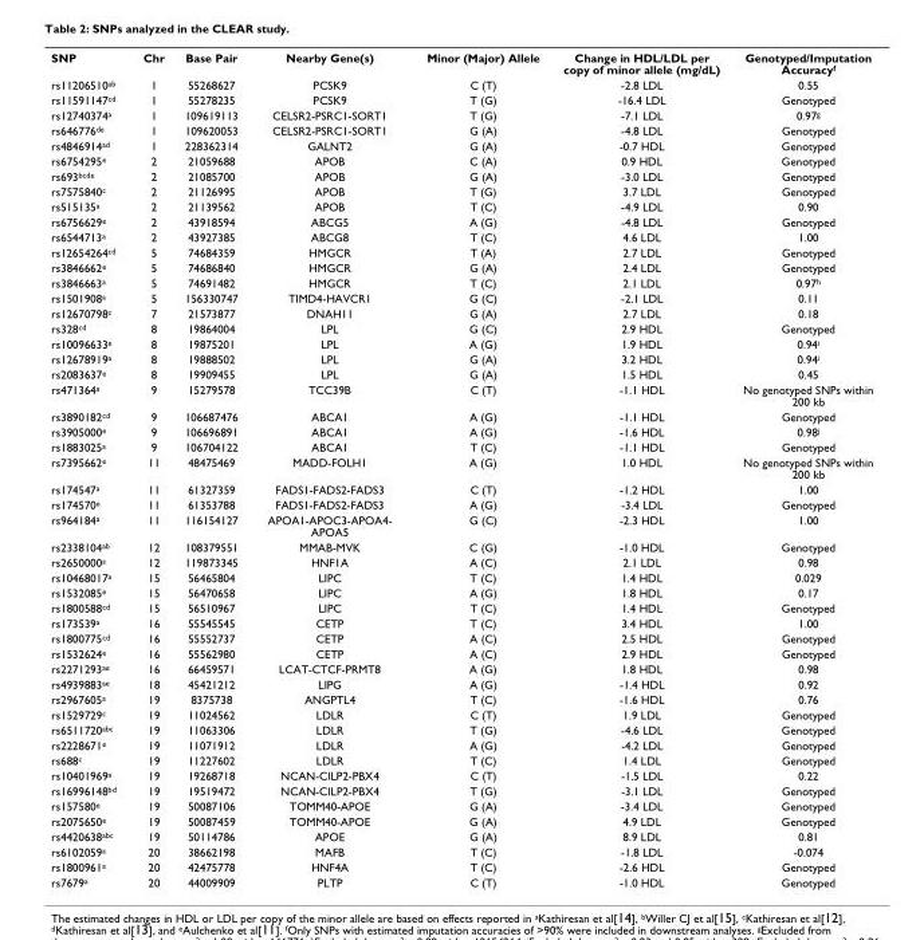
<table><tbody><tr><td>SNP</td><td>Chr</td><td>Base Pair</td><td>Nearby Gene(s)</td><td>Minor (Major) Allele</td><td>Change in HDL/LDL per copy of minor allele (mg/dL)</td><td>Genotyped/Imputation Accuracy<sup>f</sup></td></tr><tr><td>rs11206510<sup>ab</sup></td><td>1</td><td>55268627</td><td>PCSK9</td><td>C (T)</td><td>-2.8 LDL</td><td>0.55</td></tr><tr><td>rs11591147<sup>cd</sup></td><td>1</td><td>55278235</td><td>PCSK9</td><td>T (G)</td><td>-16.4 LDL</td><td>Genotyped</td></tr><tr><td>rs12740374<sup>a</sup></td><td>1</td><td>109619113</td><td>CELSR2-PSRC1-SORT1</td><td>T (G)</td><td>-7.1 LDL</td><td>0.97<sup>g</sup></td></tr><tr><td>rs646776<sup>de</sup></td><td>1</td><td>109620053</td><td>CELSR2-PSRC1-SORT1</td><td>G (A)</td><td>-4.8 LDL</td><td>Genotyped</td></tr><tr><td>rs4846914<sup>ad</sup></td><td>1</td><td>228362314</td><td>GALNT2</td><td>G (A)</td><td>-0.7 HDL</td><td>Genotyped</td></tr><tr><td>rs6754295<sup>e</sup></td><td>2</td><td>21059688</td><td>APOB</td><td>C (A)</td><td>0.9 HDL</td><td>Genotyped</td></tr><tr><td>rs693<sup>bcde</sup></td><td>2</td><td>21085700</td><td>APOB</td><td>G (A)</td><td>-3.0 LDL</td><td>Genotyped</td></tr><tr><td>rs7575840<sup>c</sup></td><td>2</td><td>21126995</td><td>APOB</td><td>T (G)</td><td>3.7 LDL</td><td>Genotyped</td></tr><tr><td>rs515135<sup>a</sup></td><td>2</td><td>21139562</td><td>APOB</td><td>T (C)</td><td>-4.9 LDL</td><td>0.90</td></tr><tr><td>rs6756629<sup>e</sup></td><td>2</td><td>43918594</td><td>ABCG5</td><td>A (G)</td><td>-4.8 LDL</td><td>Genotyped</td></tr><tr><td>rs6544713<sup>a</sup></td><td>2</td><td>43927385</td><td>ABCG8</td><td>T (C)</td><td>4.6 LDL</td><td>1.00</td></tr><tr><td>rs12654264<sup>cd</sup></td><td>5</td><td>74684359</td><td>HMGCR</td><td>T (A)</td><td>2.7 LDL</td><td>Genotyped</td></tr><tr><td>rs3846662<sup>e</sup></td><td>5</td><td>74686840</td><td>HMGCR</td><td>G (A)</td><td>2.4 LDL</td><td>Genotyped</td></tr><tr><td>rs3846663<sup>a</sup></td><td>5</td><td>74691482</td><td>HMGCR</td><td>T (C)</td><td>2.1 LDL</td><td>0.97<sup>h</sup></td></tr><tr><td>rs1501908<sup>a</sup></td><td>5</td><td>156330747</td><td>TIMD4-HAVCR1</td><td>G (C)</td><td>-2.1 LDL</td><td>0.11</td></tr><tr><td>rs12670798<sup>c</sup></td><td>7</td><td>21573877</td><td>DNAH11</td><td>G (A)</td><td>2.7 LDL</td><td>0.18</td></tr><tr><td>rs328<sup>cd</sup></td><td>8</td><td>19864004</td><td>LPL</td><td>G (C)</td><td>2.9 HDL</td><td>Genotyped</td></tr><tr><td>rs10096633<sup>e</sup></td><td>8</td><td>19875201</td><td>LPL</td><td>A (G)</td><td>1.9 HDL</td><td>0.94<sup>i</sup></td></tr><tr><td>rs12678919<sup>a</sup></td><td>8</td><td>19888502</td><td>LPL</td><td>G (A)</td><td>3.2 HDL</td><td>0.94<sup>i</sup></td></tr><tr><td>rs2083637<sup>e</sup></td><td>8</td><td>19909455</td><td>LPL</td><td>G (A)</td><td>1.5 HDL</td><td>0.45</td></tr><tr><td>rs471364<sup>a</sup></td><td>9</td><td>15279578</td><td>TCC39B</td><td>C (T)</td><td>-1.1 HDL</td><td>No genotyped SNPs within 200 kb</td></tr><tr><td>rs3890182<sup>cd</sup></td><td>9</td><td>106687476</td><td>ABCA1</td><td>A (G)</td><td>-1.1 HDL</td><td>Genotyped</td></tr><tr><td>rs3905000<sup>e</sup></td><td>9</td><td>106696891</td><td>ABCA1</td><td>A (G)</td><td>-1.6 HDL</td><td>0.98<sup>j</sup></td></tr><tr><td>rs1883025<sup>a</sup></td><td>9</td><td>106704122</td><td>ABCA1</td><td>T (C)</td><td>-1.1 HDL</td><td>Genotyped</td></tr><tr><td>rs7395662<sup>e</sup></td><td>11</td><td>48475469</td><td>MADD-FOLH1</td><td>A (G)</td><td>1.0 HDL</td><td>No genotyped SNPs within 200 kb</td></tr><tr><td>rs174547<sup>a</sup></td><td>11</td><td>61327359</td><td>FADS1-FADS2-FADS3</td><td>C (T)</td><td>-1.2 HDL</td><td>1.00</td></tr><tr><td>rs174570<sup>e</sup></td><td>11</td><td>61353788</td><td>FADS1-FADS2-FADS3</td><td>A (G)</td><td>-3.4 LDL</td><td>Genotyped</td></tr><tr><td>rs964184<sup>a</sup></td><td>11</td><td>116154127</td><td>APOA1-APOC3-APOA4- APOA5</td><td>G (C)</td><td>-2.3 HDL</td><td>1.00</td></tr><tr><td>rs2338104<sup>ab</sup></td><td>12</td><td>108379551</td><td>MMAB-MVK</td><td>C (G)</td><td>-1.0 HDL</td><td>Genotyped</td></tr><tr><td>rs2650000<sup>a</sup></td><td>12</td><td>119873345</td><td>HNF1A</td><td>A (C)</td><td>2.1 LDL</td><td>0.98</td></tr><tr><td>rs10468017<sup>a</sup></td><td>15</td><td>56465804</td><td>LIPC</td><td>T (C)</td><td>1.4 HDL</td><td>0.029</td></tr><tr><td>rs1532085<sup>e</sup></td><td>15</td><td>56470658</td><td>LIPC</td><td>A (G)</td><td>1.8 HDL</td><td>0.17</td></tr><tr><td>rs1800588<sup>cd</sup></td><td>15</td><td>56510967</td><td>LIPC</td><td>T (C)</td><td>1.4 HDL</td><td>Genotyped</td></tr><tr><td>rs173539<sup>a</sup></td><td>16</td><td>55545545</td><td>CETP</td><td>T (C)</td><td>3.4 HDL</td><td>1.00</td></tr><tr><td>rs1800775<sup>cd</sup></td><td>16</td><td>55552737</td><td>CETP</td><td>A (C)</td><td>2.5 HDL</td><td>Genotyped</td></tr><tr><td>rs1532624<sup>e</sup></td><td>16</td><td>55562980</td><td>CETP</td><td>A (C)</td><td>2.9 HDL</td><td>Genotyped</td></tr><tr><td>rs2271293<sup>ae</sup></td><td>16</td><td>66459571</td><td>LCAT-CTCF-PRMT8</td><td>A (G)</td><td>1.8 HDL</td><td>0.98</td></tr><tr><td>rs4939883<sup>ae</sup></td><td>18</td><td>45421212</td><td>LIPG</td><td>A (G)</td><td>-1.4 HDL</td><td>0.92</td></tr><tr><td>rs2967605<sup>a</sup></td><td>19</td><td>8375738</td><td>ANGPTL4</td><td>T (C)</td><td>-1.6 HDL</td><td>0.76</td></tr><tr><td>rs1529729<sup>c</sup></td><td>19</td><td>11024562</td><td>LDLR</td><td>C (T)</td><td>1.9 LDL</td><td>Genotyped</td></tr><tr><td>rs6511720<sup>abc</sup></td><td>19</td><td>11063306</td><td>LDLR</td><td>T (G)</td><td>-4.6 LDL</td><td>Genotyped</td></tr><tr><td>rs2228671<sup>e</sup></td><td>19</td><td>11071912</td><td>LDLR</td><td>A (G)</td><td>-4.2 LDL</td><td>Genotyped</td></tr><tr><td>rs688<sup>c</sup></td><td>19</td><td>11227602</td><td>LDLR</td><td>T (C)</td><td>1.4 LDL</td><td>Genotyped</td></tr><tr><td>rs10401969<sup>a</sup></td><td>19</td><td>19268718</td><td>NCAN-CILP2-PBX4</td><td>C (T)</td><td>-1.5 LDL</td><td>0.22</td></tr><tr><td>rs16996148<sup>bd</sup></td><td>19</td><td>19519472</td><td>NCAN-CILP2-PBX4</td><td>T (G)</td><td>-3.1 LDL</td><td>Genotyped</td></tr><tr><td>rs157580<sup>e</sup></td><td>19</td><td>50087106</td><td>TOMM40-APOE</td><td>G (A)</td><td>-3.4 LDL</td><td>Genotyped</td></tr><tr><td>rs2075650<sup>e</sup></td><td>19</td><td>50087459</td><td>TOMM40-APOE</td><td>G (A)</td><td>4.9 LDL</td><td>Genotyped</td></tr><tr><td>rs4420638<sup>abc</sup></td><td>19</td><td>50114786</td><td>APOE</td><td>G (A)</td><td>8.9 LDL</td><td>0.81</td></tr><tr><td>rs6102059<sup>a</sup></td><td>20</td><td>38662198</td><td>MAFB</td><td>T (C)</td><td>-1.8 LDL</td><td>-0.074</td></tr><tr><td>rs1800961<sup>a</sup></td><td>20</td><td>42475778</td><td>HNF4A</td><td>T (C)</td><td>-2.6 HDL</td><td>Genotyped</td></tr><tr><td>rs7679<sup>a</sup></td><td>20</td><td>44009909</td><td>PLTP</td><td>C (T)</td><td>-1.0 HDL</td><td>Genotyped</td></tr></tbody></table>